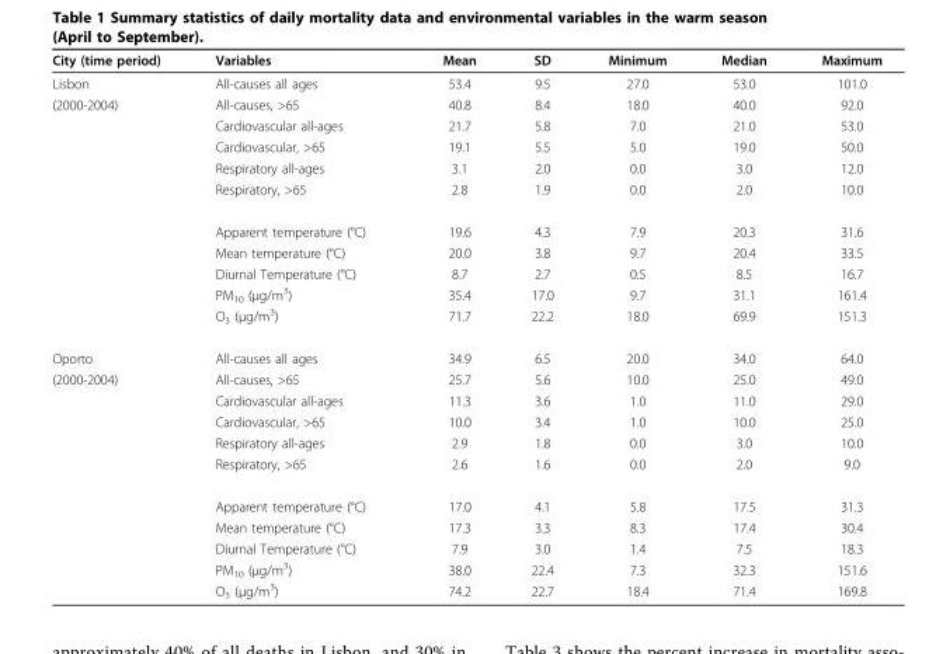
<table><thead><tr><td>City (time period)</td><td>Variables</td><td>Mean</td><td>SD</td><td>Minimum</td><td>Median</td><td>Maximum</td></tr></thead><tbody><tr><td>Lisbon</td><td>All-causes all ages</td><td>53.4</td><td>9.5</td><td>27.0</td><td>53.0</td><td>101.0</td></tr><tr><td rowspan="10">(2000-2004)</td><td>All-causes, &gt;65</td><td>40.8</td><td>8.4</td><td>18.0</td><td>40.0</td><td>92.0</td></tr><tr><td>Cardiovascular all-ages</td><td>21.7</td><td>5.8</td><td>7.0</td><td>21.0</td><td>53.0</td></tr><tr><td>Cardiovascular, &gt;65</td><td>19.1</td><td>5.5</td><td>5.0</td><td>19.0</td><td>50.0</td></tr><tr><td>Respiratory all-ages</td><td>3.1</td><td>2.0</td><td>0.0</td><td>3.0</td><td>12.0</td></tr><tr><td>Respiratory, &gt;65</td><td>2.8</td><td>1.9</td><td>0.0</td><td>2.0</td><td>10.0</td></tr><tr><td>Apparent temperature (°C)</td><td>19.6</td><td>4.3</td><td>7.9</td><td>20.3</td><td>31.6</td></tr><tr><td>Mean temperature (°C)</td><td>20.0</td><td>3.8</td><td>9.7</td><td>20.4</td><td>33.5</td></tr><tr><td>Diurnal Temperature (°C)</td><td>8.7</td><td>2.7</td><td>0.5</td><td>8.5</td><td>16.7</td></tr><tr><td>PM<sub>10</sub> (μg/m<sup>3</sup>)</td><td>35.4</td><td>17.0</td><td>9.7</td><td>31.1</td><td>161.4</td></tr><tr><td>O<sub>3</sub> (μg/m<sup>3</sup>)</td><td>71.7</td><td>22.2</td><td>18.0</td><td>69.9</td><td>151.3</td></tr><tr><td>Oporto</td><td>All-causes all ages</td><td>34.9</td><td>6.5</td><td>20.0</td><td>34.0</td><td>64.0</td></tr><tr><td rowspan="10">(2000-2004)</td><td>All-causes, &gt;65</td><td>25.7</td><td>5.6</td><td>10.0</td><td>25.0</td><td>49.0</td></tr><tr><td>Cardiovascular all-ages</td><td>11.3</td><td>3.6</td><td>1.0</td><td>11.0</td><td>29.0</td></tr><tr><td>Cardiovascular, &gt;65</td><td>10.0</td><td>3.4</td><td>1.0</td><td>10.0</td><td>25.0</td></tr><tr><td>Respiratory all-ages</td><td>2.9</td><td>1.8</td><td>0.0</td><td>3.0</td><td>10.0</td></tr><tr><td>Respiratory, &gt;65</td><td>2.6</td><td>1.6</td><td>0.0</td><td>2.0</td><td>9.0</td></tr><tr><td>Apparent temperature (°C)</td><td>17.0</td><td>4.1</td><td>5.8</td><td>17.5</td><td>31.3</td></tr><tr><td>Mean temperature (°C)</td><td>17.3</td><td>3.3</td><td>8.3</td><td>17.4</td><td>30.4</td></tr><tr><td>Diurnal Temperature (°C)</td><td>7.9</td><td>3.0</td><td>1.4</td><td>7.5</td><td>18.3</td></tr><tr><td>PM<sub>10</sub> (μg/m<sup>3</sup>)</td><td>38.0</td><td>22.4</td><td>7.3</td><td>32.3</td><td>151.6</td></tr><tr><td>O<sub>3</sub> (μg/m<sup>3</sup>)</td><td>74.2</td><td>22.7</td><td>18.4</td><td>71.4</td><td>169.8</td></tr></tbody></table>